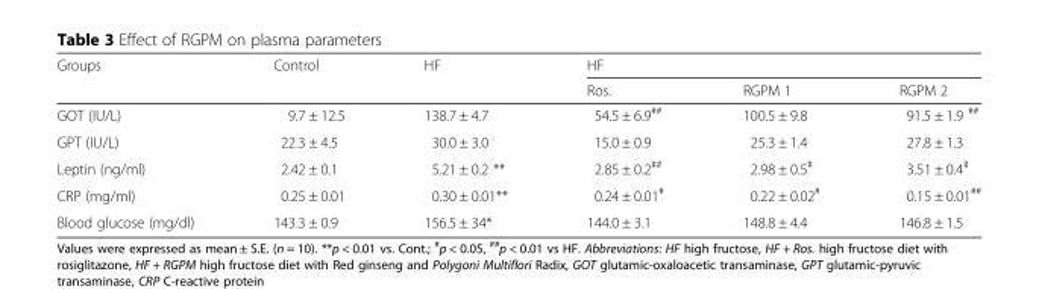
<table><thead><tr><td rowspan="2">Groups</td><td rowspan="2">Control</td><td rowspan="2">HF</td><td colspan="3">HF</td></tr><tr><td>Ros.</td><td>RGPM 1</td><td>RGPM 2</td></tr></thead><tbody><tr><td>GOT (IU/L)</td><td>9.7 ± 12.5</td><td>138.7 ± 4.7</td><td>54.5 ± 6.9<sup>##</sup></td><td>100.5 ± 9.8</td><td>91.5 ± 1.9 <sup>##</sup></td></tr><tr><td>GPT (IU/L)</td><td>22.3 ± 4.5</td><td>30.0 ± 3.0</td><td>15.0 ± 0.9</td><td>25.3 ± 1.4</td><td>27.8 ± 1.3</td></tr><tr><td>Leptin (ng/ml)</td><td>2.42 ± 0.1</td><td>5.21 ± 0.2 **</td><td>2.85 ± 0.2<sup>##</sup></td><td>2.98 ± 0.5<sup>#</sup></td><td>3.51 ± 0.4<sup>#</sup></td></tr><tr><td>CRP (mg/ml)</td><td>0.25 ± 0.01</td><td>0.30 ± 0.01**</td><td>0.24 ± 0.01<sup>#</sup></td><td>0.22 ± 0.02<sup>#</sup></td><td>0.15 ± 0.01<sup>##</sup></td></tr><tr><td>Blood glucose (mg/dl)</td><td>143.3 ± 0.9</td><td>156.5 ± 34*</td><td>144.0 ± 3.1</td><td>148.8 ± 4.4</td><td>146.8 ± 1.5</td></tr></tbody></table>